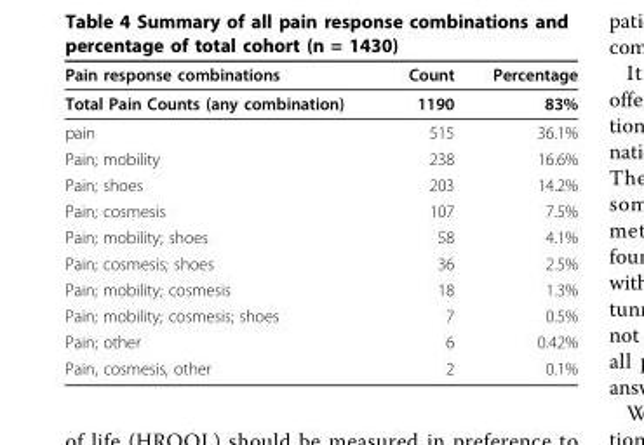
<table><thead><tr><td>Pain response combinations</td><td>Count</td><td>Percentage</td></tr></thead><tbody><tr><td>Total Pain Counts (any combination)</td><td>1190</td><td>83%</td></tr><tr><td>pain</td><td>515</td><td>36.1%</td></tr><tr><td>Pain; mobility</td><td>238</td><td>16.6%</td></tr><tr><td>Pain; shoes</td><td>203</td><td>14.2%</td></tr><tr><td>Pain; cosmesis</td><td>107</td><td>7.5%</td></tr><tr><td>Pain; mobility; shoes</td><td>58</td><td>4.1%</td></tr><tr><td>Pain; cosmesis; shoes</td><td>36</td><td>2.5%</td></tr><tr><td>Pain; mobility; cosmesis</td><td>18</td><td>1.3%</td></tr><tr><td>Pain; mobility; cosmesis; shoes</td><td>7</td><td>0.5%</td></tr><tr><td>Pain; other</td><td>6</td><td>0.42%</td></tr><tr><td>Pain, cosmesis, other</td><td>2</td><td>0.1%</td></tr></tbody></table>